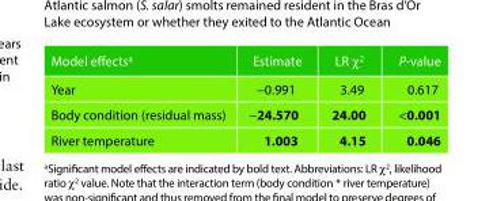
<table><thead><tr><td>Model effects<sup>a</sup></td><td>Estimate</td><td>LR χ<sup>2</sup></td><td>P-value</td></tr></thead><tbody><tr><td>Year</td><td>−0.991</td><td>3.49</td><td>0.617</td></tr><tr><td>Body condition (residual mass)</td><td>−24.570</td><td>24.00</td><td>&lt;0.001</td></tr><tr><td>River temperature</td><td>1.003</td><td>4.15</td><td>0.046</td></tr></tbody></table>